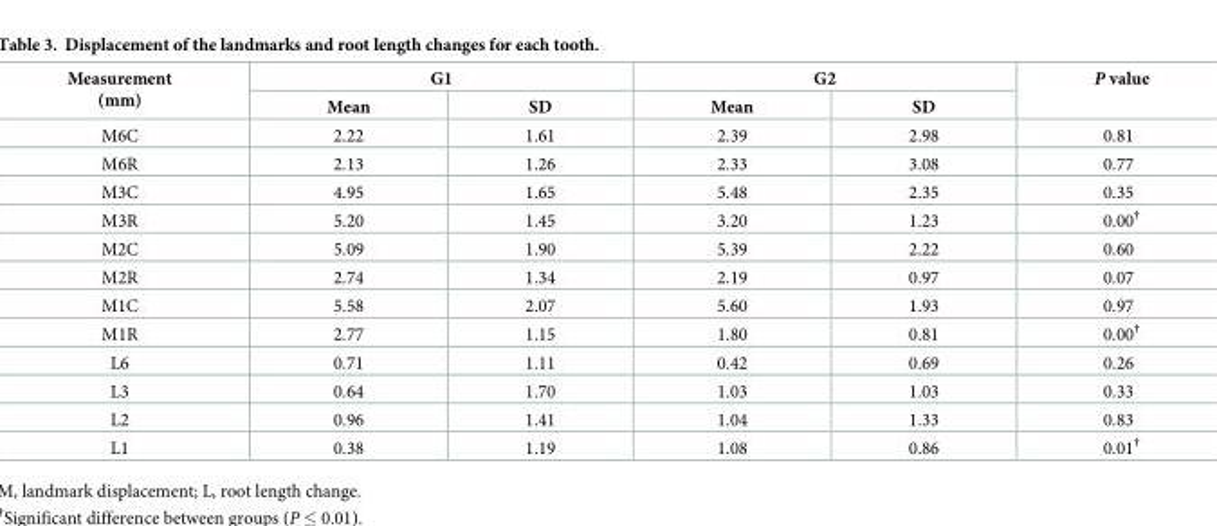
<table><thead><tr><td rowspan="2">Measurement (mm)</td><td colspan="2">G1</td><td colspan="2">G2</td><td rowspan="2">P value</td></tr><tr><td>Mean</td><td>SD</td><td>Mean</td><td>SD</td></tr></thead><tbody><tr><td>M6C</td><td>2.22</td><td>1.61</td><td>2.39</td><td>2.98</td><td>0.81</td></tr><tr><td>M6R</td><td>2.13</td><td>1.26</td><td>2.33</td><td>3.08</td><td>0.77</td></tr><tr><td>M3C</td><td>4.95</td><td>1.65</td><td>5.48</td><td>2.35</td><td>0.35</td></tr><tr><td>M3R</td><td>5.20</td><td>1.45</td><td>3.20</td><td>1.23</td><td>0.00<sup>†</sup></td></tr><tr><td>M2C</td><td>5.09</td><td>1.90</td><td>5.39</td><td>2.22</td><td>0.60</td></tr><tr><td>M2R</td><td>2.74</td><td>1.34</td><td>2.19</td><td>0.97</td><td>0.07</td></tr><tr><td>M1C</td><td>5.58</td><td>2.07</td><td>5.60</td><td>1.93</td><td>0.97</td></tr><tr><td>M1R</td><td>2.77</td><td>1.15</td><td>1.80</td><td>0.81</td><td>0.00<sup>†</sup></td></tr><tr><td>L6</td><td>0.71</td><td>1.11</td><td>0.42</td><td>0.69</td><td>0.26</td></tr><tr><td>L3</td><td>0.64</td><td>1.70</td><td>1.03</td><td>1.03</td><td>0.33</td></tr><tr><td>L2</td><td>0.96</td><td>1.41</td><td>1.04</td><td>1.33</td><td>0.83</td></tr><tr><td>L1</td><td>0.38</td><td>1.19</td><td>1.08</td><td>0.86</td><td>0.01<sup>†</sup></td></tr></tbody></table>